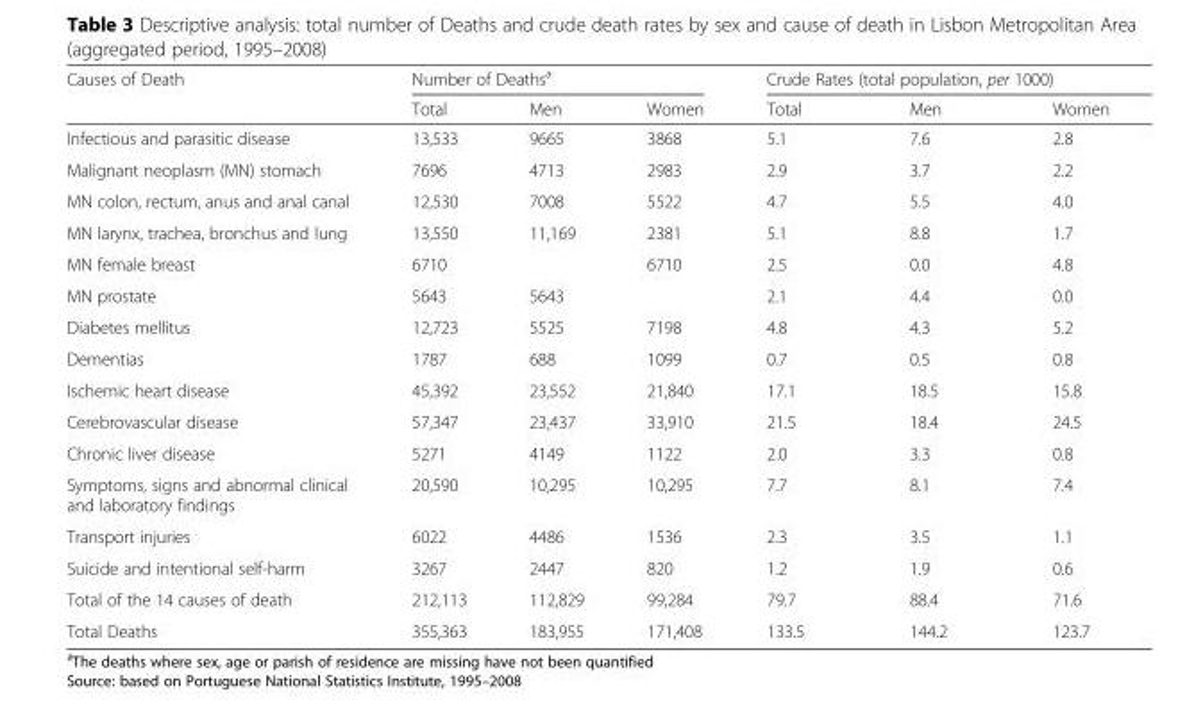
<table><thead><tr><td rowspan="2">Causes of Death</td><td colspan="3">Number of Deaths<sup>a</sup></td><td colspan="3">Crude Rates (total population, per 1000)</td></tr><tr><td>Total</td><td>Men</td><td>Women</td><td>Total</td><td>Men</td><td>Women</td></tr></thead><tbody><tr><td>Infectious and parasitic disease</td><td>13,533</td><td>9665</td><td>3868</td><td>5.1</td><td>7.6</td><td>2.8</td></tr><tr><td>Malignant neoplasm (MN) stomach</td><td>7696</td><td>4713</td><td>2983</td><td>2.9</td><td>3.7</td><td>2.2</td></tr><tr><td>MN colon, rectum, anus and anal canal</td><td>12,530</td><td>7008</td><td>5522</td><td>4.7</td><td>5.5</td><td>4.0</td></tr><tr><td>MN larynx, trachea, bronchus and lung</td><td>13,550</td><td>11,169</td><td>2381</td><td>5.1</td><td>8.8</td><td>1.7</td></tr><tr><td>MN female breast</td><td>6710</td><td></td><td>6710</td><td>2.5</td><td>0.0</td><td>4.8</td></tr><tr><td>MN prostate</td><td>5643</td><td>5643</td><td></td><td>2.1</td><td>4.4</td><td>0.0</td></tr><tr><td>Diabetes mellitus</td><td>12,723</td><td>5525</td><td>7198</td><td>4.8</td><td>4.3</td><td>5.2</td></tr><tr><td>Dementias</td><td>1787</td><td>688</td><td>1099</td><td>0.7</td><td>0.5</td><td>0.8</td></tr><tr><td>Ischemic heart disease</td><td>45,392</td><td>23,552</td><td>21,840</td><td>17.1</td><td>18.5</td><td>15.8</td></tr><tr><td>Cerebrovascular disease</td><td>57,347</td><td>23,437</td><td>33,910</td><td>21.5</td><td>18.4</td><td>24.5</td></tr><tr><td>Chronic liver disease</td><td>5271</td><td>4149</td><td>1122</td><td>2.0</td><td>3.3</td><td>0.8</td></tr><tr><td>Symptoms, signs and abnormal clinical and laboratory findings</td><td>20,590</td><td>10,295</td><td>10,295</td><td>7.7</td><td>8.1</td><td>7.4</td></tr><tr><td>Transport injuries</td><td>6022</td><td>4486</td><td>1536</td><td>2.3</td><td>3.5</td><td>1.1</td></tr><tr><td>Suicide and intentional self-harm</td><td>3267</td><td>2447</td><td>820</td><td>1.2</td><td>1.9</td><td>0.6</td></tr><tr><td>Total of the 14 causes of death</td><td>212,113</td><td>112,829</td><td>99,284</td><td>79.7</td><td>88.4</td><td>71.6</td></tr><tr><td>Total Deaths</td><td>355,363</td><td>183,955</td><td>171,408</td><td>133.5</td><td>144.2</td><td>123.7</td></tr></tbody></table>